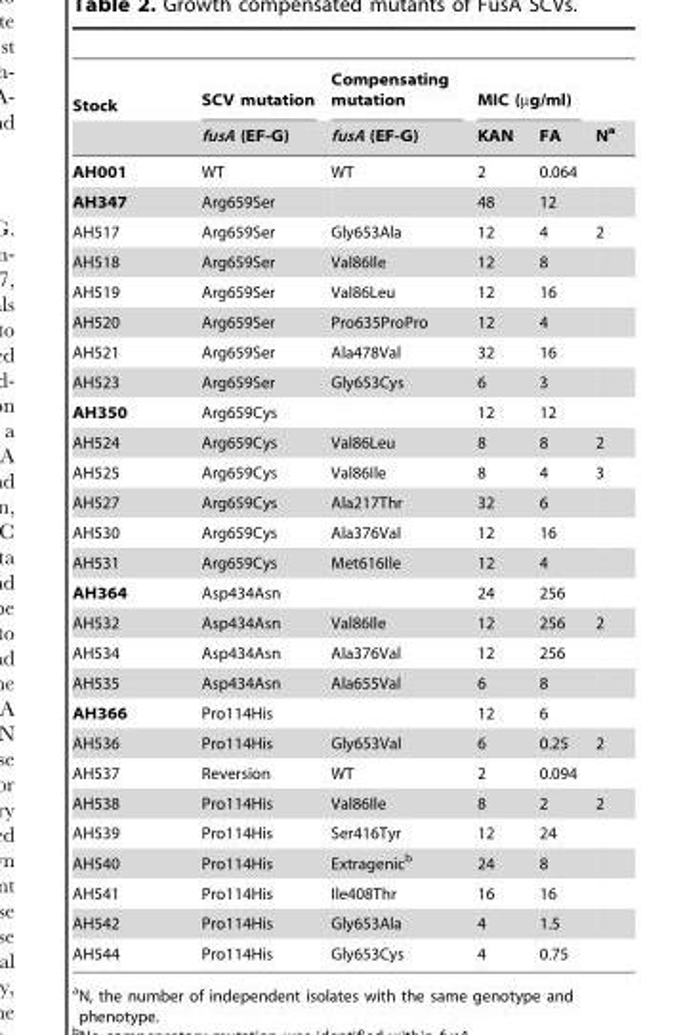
<table><thead><tr><td rowspan="2">Stock</td><td rowspan="2">SCV mutation fusA (EF-G)</td><td rowspan="2">Compensating mutation fusA (EF-G)</td><td colspan="2">MIC (µg/ml)</td><td rowspan="2">N<sup>a</sup></td></tr><tr><td>KAN</td><td>FA</td></tr></thead><tbody><tr><td>AH001</td><td>WT</td><td>WT</td><td>2</td><td>0.064</td><td></td></tr><tr><td>AH347</td><td>Arg659Ser</td><td></td><td>48</td><td>12</td><td></td></tr><tr><td>AH517</td><td>Arg659Ser</td><td>Gly653Ala</td><td>12</td><td>4</td><td>2</td></tr><tr><td>AH518</td><td>Arg659Ser</td><td>Val86Ile</td><td>12</td><td>8</td><td></td></tr><tr><td>AH519</td><td>Arg659Ser</td><td>Val86Leu</td><td>12</td><td>16</td><td></td></tr><tr><td>AH520</td><td>Arg659Ser</td><td>Pro635ProPro</td><td>12</td><td>4</td><td></td></tr><tr><td>AH521</td><td>Arg659Ser</td><td>Ala478Val</td><td>32</td><td>16</td><td></td></tr><tr><td>AH523</td><td>Arg659Ser</td><td>Gly653Cys</td><td>6</td><td>3</td><td></td></tr><tr><td>AH350</td><td>Arg659Cys</td><td></td><td>12</td><td>12</td><td></td></tr><tr><td>AH524</td><td>Arg659Cys</td><td>Val86Leu</td><td>8</td><td>8</td><td>2</td></tr><tr><td>AH525</td><td>Arg659Cys</td><td>Val86Ile</td><td>8</td><td>4</td><td>3</td></tr><tr><td>AH527</td><td>Arg659Cys</td><td>Ala217Thr</td><td>32</td><td>6</td><td></td></tr><tr><td>AH530</td><td>Arg659Cys</td><td>Ala376Val</td><td>12</td><td>16</td><td></td></tr><tr><td>AH531</td><td>Arg659Cys</td><td>Met616Ile</td><td>12</td><td>4</td><td></td></tr><tr><td>AH364</td><td>Asp434Asn</td><td></td><td>24</td><td>256</td><td></td></tr><tr><td>AH532</td><td>Asp434Asn</td><td>Val86Ile</td><td>12</td><td>256</td><td>2</td></tr><tr><td>AH534</td><td>Asp434Asn</td><td>Ala376Val</td><td>12</td><td>256</td><td></td></tr><tr><td>AH535</td><td>Asp434Asn</td><td>Ala655Val</td><td>6</td><td>8</td><td></td></tr><tr><td>AH366</td><td>Pro114His</td><td></td><td>12</td><td>6</td><td></td></tr><tr><td>AH536</td><td>Pro114His</td><td>Gly653Val</td><td>6</td><td>0.25</td><td>2</td></tr><tr><td>AH537</td><td>Reversion</td><td>WT</td><td>2</td><td>0.094</td><td></td></tr><tr><td>AH538</td><td>Pro114His</td><td>Val86Ile</td><td>8</td><td>2</td><td>2</td></tr><tr><td>AH539</td><td>Pro114His</td><td>Ser416Tyr</td><td>12</td><td>24</td><td></td></tr><tr><td>AH540</td><td>Pro114His</td><td>Extragenic<sup>b</sup></td><td>24</td><td>8</td><td></td></tr><tr><td>AH541</td><td>Pro114His</td><td>Ile408Thr</td><td>16</td><td>16</td><td></td></tr><tr><td>AH542</td><td>Pro114His</td><td>Gly653Ala</td><td>4</td><td>1.5</td><td></td></tr><tr><td>AH544</td><td>Pro114His</td><td>Gly653Cys</td><td>4</td><td>0.75</td><td></td></tr></tbody></table>